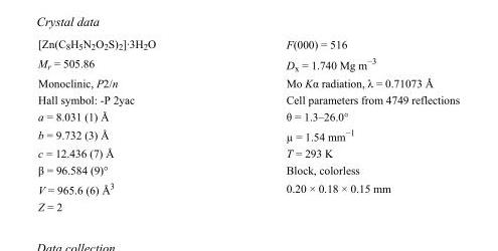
<table><tbody><tr><td>[Zn(C<sub>8</sub>H<sub>5</sub>N<sub>2</sub>O<sub>2</sub>S)<sub>2</sub>]·3H<sub>2</sub>O</td><td>F(000) = 516</td></tr><tr><td>M<sub>r</sub> = 505.86</td><td>D<sub>x</sub> = 1.740 Mg m<sup>−3</sup></td></tr><tr><td>Monoclinic, P2/n</td><td>Mo Kα radiation, λ = 0.71073 Å</td></tr><tr><td>Hall symbol: -P 2yac</td><td>Cell parameters from 4749 reflections</td></tr><tr><td>a = 8.031 (1) Å</td><td>θ = 1.3–26.0°</td></tr><tr><td>b = 9.732 (3) Å</td><td>µ = 1.54 mm<sup>−1</sup></td></tr><tr><td>c = 12.436 (7) Å</td><td>T = 293 K</td></tr><tr><td>β = 96.584 (9)°</td><td>Block, colorless</td></tr><tr><td>V = 965.6 (6) Å<sup>3</sup></td><td>0.20 × 0.18 × 0.15 mm</td></tr><tr><td>Z = 2</td><td></td></tr></tbody></table>